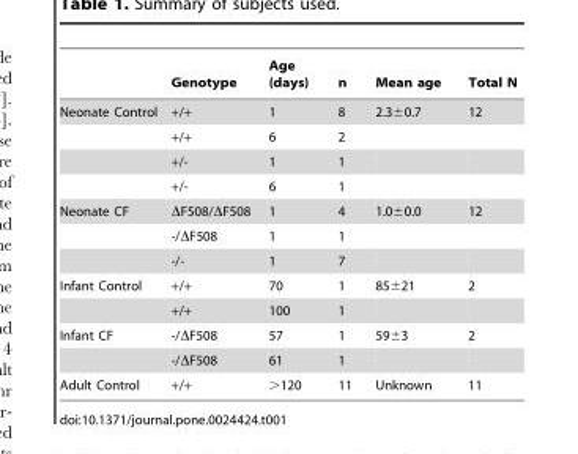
<table><thead><tr><td></td><td>Genotype</td><td>Age (days)</td><td>n</td><td>Mean age</td><td>Total N</td></tr></thead><tbody><tr><td rowspan="4">Neonate Control</td><td>+/+</td><td>1</td><td>8</td><td>2.3±0.7</td><td>12</td></tr><tr><td>+/+</td><td>6</td><td>2</td><td></td><td></td></tr><tr><td>+/-</td><td>1</td><td>1</td><td></td><td></td></tr><tr><td>+/-</td><td>6</td><td>1</td><td></td><td></td></tr><tr><td rowspan="3">Neonate CF</td><td>ΔF508/ΔF508</td><td>1</td><td>4</td><td>1.0±0.0</td><td>12</td></tr><tr><td>-/ΔF508</td><td>1</td><td>1</td><td></td><td></td></tr><tr><td>-/-</td><td>1</td><td>7</td><td></td><td></td></tr><tr><td rowspan="2">Infant Control</td><td>+/+</td><td>70</td><td>1</td><td>85±21</td><td>2</td></tr><tr><td>+/+</td><td>100</td><td>1</td><td></td><td></td></tr><tr><td rowspan="2">Infant CF</td><td>-/ΔF508</td><td>57</td><td>1</td><td>59±3</td><td>2</td></tr><tr><td>-/ΔF508</td><td>61</td><td>1</td><td></td><td></td></tr><tr><td>Adult Control</td><td>+/+</td><td>&gt;120</td><td>11</td><td>Unknown</td><td>11</td></tr></tbody></table>